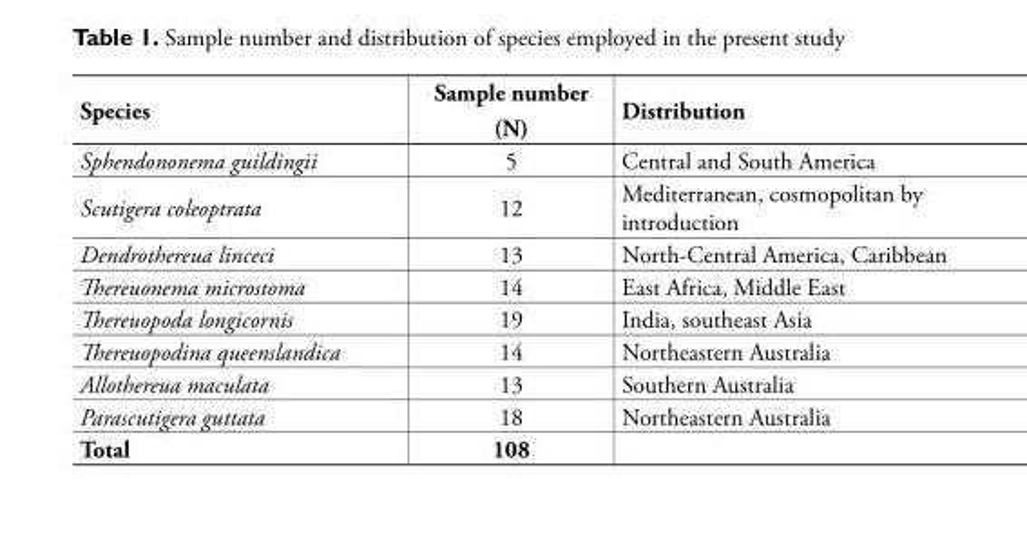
<table><tbody><tr><td>Species</td><td>Sample number (N)</td><td>Distribution</td></tr><tr><td>Sphendononema guildingii</td><td>5</td><td>Central and South America</td></tr><tr><td>Scutigera coleoptrata</td><td>12</td><td>Mediterranean, cosmopolitan by introduction</td></tr><tr><td>Dendrothereua linceci</td><td>13</td><td>North-Central America, Caribbean</td></tr><tr><td>Thereuonema microstoma</td><td>14</td><td>East Africa, Middle East</td></tr><tr><td>Thereuopoda longicornis</td><td>19</td><td>India, southeast Asia</td></tr><tr><td>Thereuopodina queenslandica</td><td>14</td><td>Northeastern Australia</td></tr><tr><td>Allothereua maculata</td><td>13</td><td>Southern Australia</td></tr><tr><td>Parascutigera guttata</td><td>18</td><td>Northeastern Australia</td></tr><tr><td>Total</td><td>108</td><td></td></tr></tbody></table>